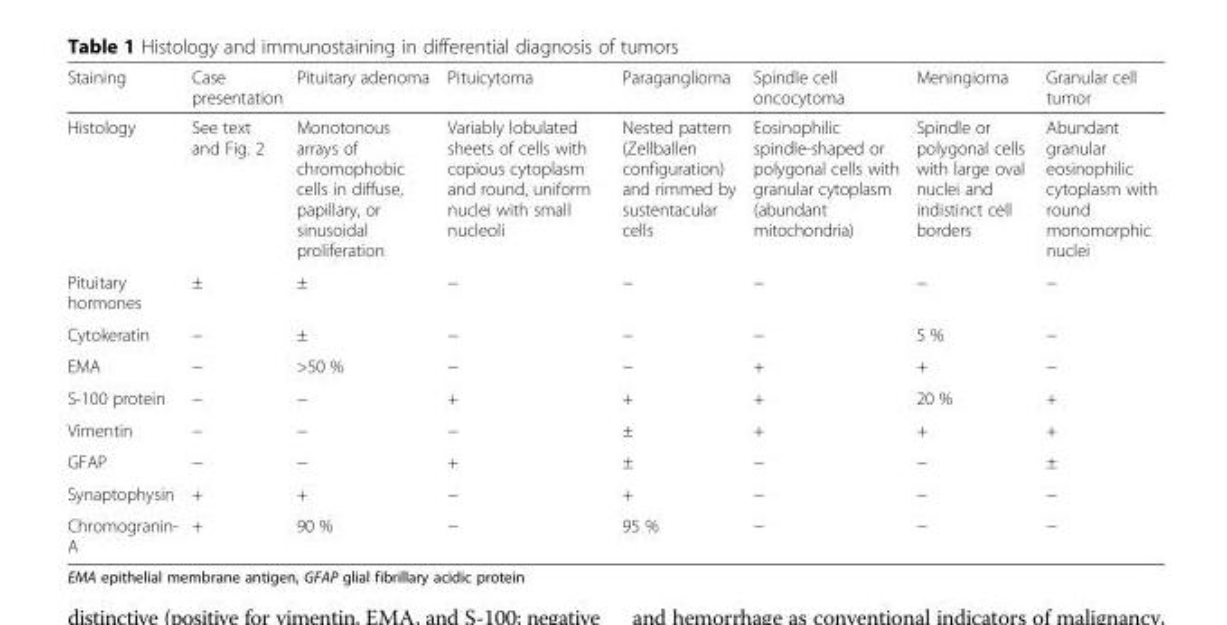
<table><thead><tr><td>Staining</td><td>Case presentation</td><td>Pituitary adenoma</td><td>Pituicytoma</td><td>Paraganglioma</td><td>Spindle cell oncocytoma</td><td>Meningioma</td><td>Granular cell tumor</td></tr></thead><tbody><tr><td>Histology</td><td>See text and Fig. 2</td><td>Monotonous arrays of chromophobic cells in diffuse, papillary, or sinusoidal proliferation</td><td>Variably lobulated sheets of cells with copious cytoplasm and round, uniform nuclei with small nucleoli</td><td>Nested pattern (Zellballen configuration) and rimmed by sustentacular cells</td><td>Eosinophilic spindle-shaped or polygonal cells with granular cytoplasm (abundant mitochondria)</td><td>Spindle or polygonal cells with large oval nuclei and indistinct cell borders</td><td>Abundant granular eosinophilic cytoplasm with round monomorphic nuclei</td></tr><tr><td>Pituitary hormones</td><td>±</td><td>±</td><td>−</td><td>−</td><td>−</td><td>−</td><td>−</td></tr><tr><td>Cytokeratin</td><td>−</td><td>±</td><td>−</td><td>−</td><td>−</td><td>5 %</td><td>−</td></tr><tr><td>EMA</td><td>−</td><td>&gt;50 %</td><td>−</td><td>−</td><td>+</td><td>+</td><td>−</td></tr><tr><td>S-100 protein</td><td>−</td><td>−</td><td>+</td><td>+</td><td>+</td><td>20 %</td><td>+</td></tr><tr><td>Vimentin</td><td>−</td><td>−</td><td>−</td><td>±</td><td>+</td><td>+</td><td>+</td></tr><tr><td>GFAP</td><td>−</td><td>−</td><td>+</td><td>±</td><td>−</td><td>−</td><td>±</td></tr><tr><td>Synaptophysin</td><td>+</td><td>+</td><td>−</td><td>+</td><td>−</td><td>−</td><td>−</td></tr><tr><td>Chromogranin- A</td><td>+</td><td>90 %</td><td>−</td><td>95 %</td><td>−</td><td>−</td><td>−</td></tr></tbody></table>